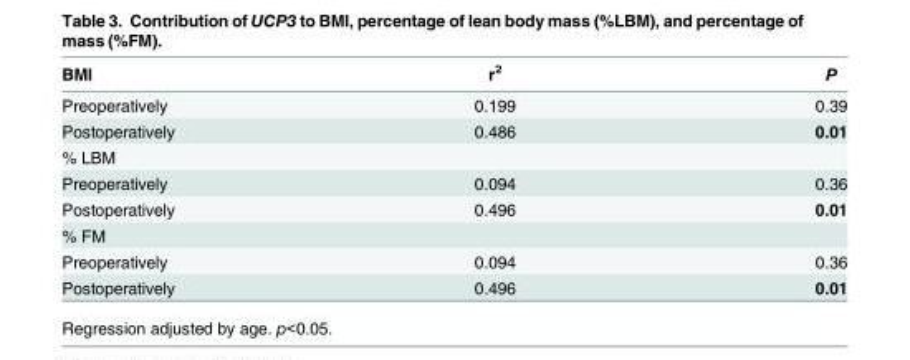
<table><thead><tr><td>BMI</td><td>r<sup>2</sup></td><td>P</td></tr></thead><tbody><tr><td>Preoperatively</td><td>0.199</td><td>0.39</td></tr><tr><td>Postoperatively</td><td>0.486</td><td>0.01</td></tr><tr><td colspan="3">% LBM</td></tr><tr><td>Preoperatively</td><td>0.094</td><td>0.36</td></tr><tr><td>Postoperatively</td><td>0.496</td><td>0.01</td></tr><tr><td colspan="3">% FM</td></tr><tr><td>Preoperatively</td><td>0.094</td><td>0.36</td></tr><tr><td>Postoperatively</td><td>0.496</td><td>0.01</td></tr></tbody></table>